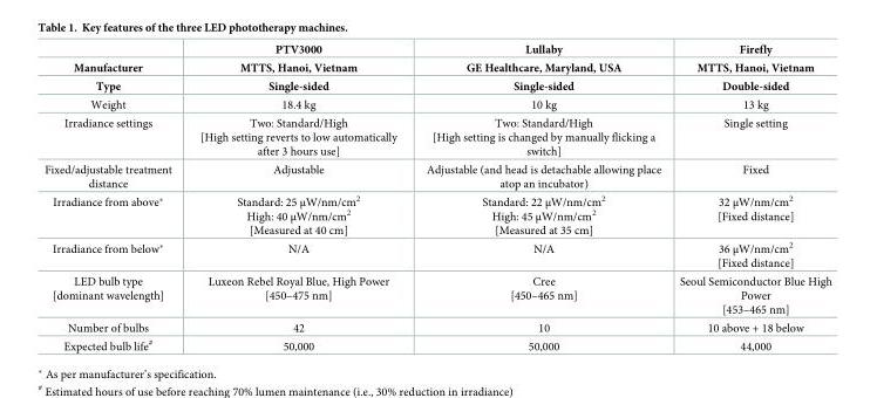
<table><thead><tr><td rowspan="3">Manufacturer Type</td><td rowspan="3">PTV3000 MTTS, Hanoi, Vietnam Single-sided</td><td rowspan="3">Lullaby GE Healthcare, Maryland, USA Single-sided</td><td rowspan="3">Firefly MTTS, Hanoi, Vietnam Double-sided</td></tr><tr></tr><tr></tr></thead><tbody><tr><td>Weight</td><td>18.4 kg</td><td>10 kg</td><td>13 kg</td></tr><tr><td>Irradiance settings</td><td>Two: Standard/High [High setting reverts to low automatically after 3 hours use]</td><td>Two: Standard/High [High setting is changed by manually flicking a switch]</td><td>Single setting</td></tr><tr><td>Fixed/adjustable treatment distance</td><td>Adjustable</td><td>Adjustable (and head is detachable allowing place atop an incubator)</td><td>Fixed</td></tr><tr><td>Irradiance from above*</td><td>Standard: 25 μW/nm/cm<sup>2</sup> High: 40 μW/nm/cm<sup>2</sup> [Measured at 40 cm]</td><td>Standard: 22 μW/nm/cm<sup>2</sup> High: 45 μW/nm/cm<sup>2</sup> [Measured at 35 cm]</td><td>32 μW/nm/cm<sup>2</sup> [Fixed distance]</td></tr><tr><td>Irradiance from below*</td><td>N/A</td><td>N/A</td><td>36 μW/nm/cm<sup>2</sup> [Fixed distance]</td></tr><tr><td>LED bulb type [dominant wavelength]</td><td>Luxeon Rebel Royal Blue, High Power [450–475 nm]</td><td>Cree [450–465 nm]</td><td>Seoul Semiconductor Blue High Power [453–465 nm]</td></tr><tr><td>Number of bulbs</td><td>42</td><td>10</td><td>10 above + 18 below</td></tr><tr><td>Expected bulb life<sup>#</sup></td><td>50,000</td><td>50,000</td><td>44,000</td></tr></tbody></table>